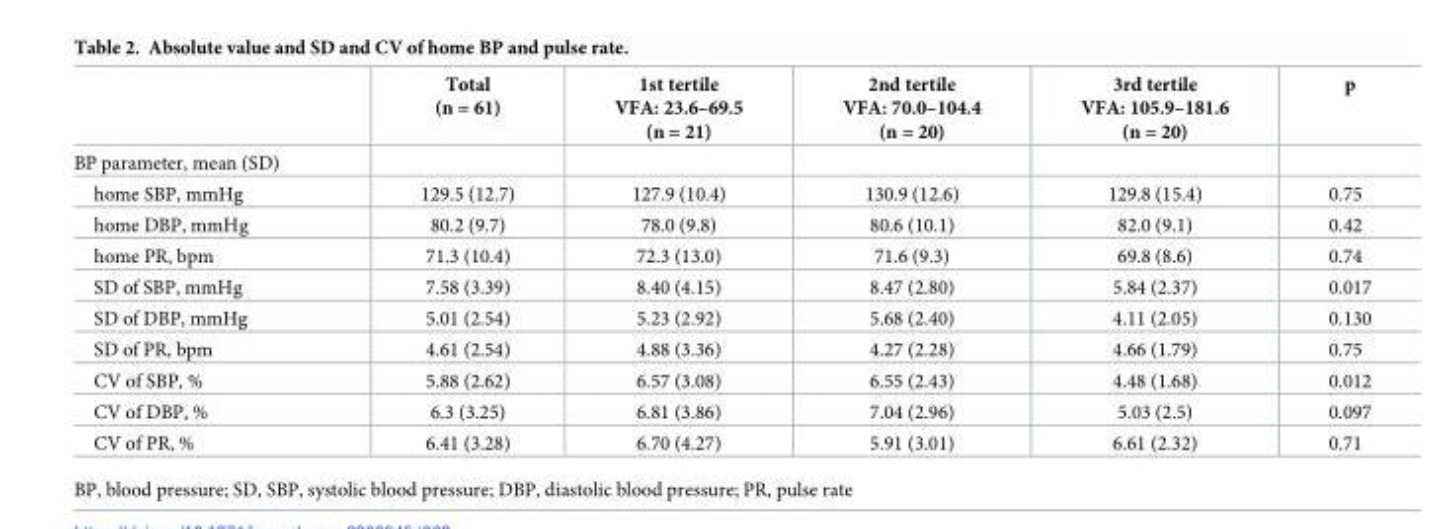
<table><thead><tr><td></td><td>Total (n = 61)</td><td>1st tertile VFA: 23.6–69.5 (n = 21)</td><td>2nd tertile VFA: 70.0–104.4 (n = 20)</td><td>3rd tertile VFA: 105.9–181.6 (n = 20)</td><td>p</td></tr></thead><tbody><tr><td colspan="6">BP parameter, mean (SD)</td></tr><tr><td>home SBP, mmHg</td><td>129.5 (12.7)</td><td>127.9 (10.4)</td><td>130.9 (12.6)</td><td>129.8 (15.4)</td><td>0.75</td></tr><tr><td>home DBP, mmHg</td><td>80.2 (9.7)</td><td>78.0 (9.8)</td><td>80.6 (10.1)</td><td>82.0 (9.1)</td><td>0.42</td></tr><tr><td>home PR, bpm</td><td>71.3 (10.4)</td><td>72.3 (13.0)</td><td>71.6 (9.3)</td><td>69.8 (8.6)</td><td>0.74</td></tr><tr><td>SD of SBP, mmHg</td><td>7.58 (3.39)</td><td>8.40 (4.15)</td><td>8.47 (2.80)</td><td>5.84 (2.37)</td><td>0.017</td></tr><tr><td>SD of DBP, mmHg</td><td>5.01 (2.54)</td><td>5.23 (2.92)</td><td>5.68 (2.40)</td><td>4.11 (2.05)</td><td>0.130</td></tr><tr><td>SD of PR, bpm</td><td>4.61 (2.54)</td><td>4.88 (3.36)</td><td>4.27 (2.28)</td><td>4.66 (1.79)</td><td>0.75</td></tr><tr><td>CV of SBP, %</td><td>5.88 (2.62)</td><td>6.57 (3.08)</td><td>6.55 (2.43)</td><td>4.48 (1.68)</td><td>0.012</td></tr><tr><td>CV of DBP, %</td><td>6.3 (3.25)</td><td>6.81 (3.86)</td><td>7.04 (2.96)</td><td>5.03 (2.5)</td><td>0.097</td></tr><tr><td>CV of PR, %</td><td>6.41 (3.28)</td><td>6.70 (4.27)</td><td>5.91 (3.01)</td><td>6.61 (2.32)</td><td>0.71</td></tr></tbody></table>